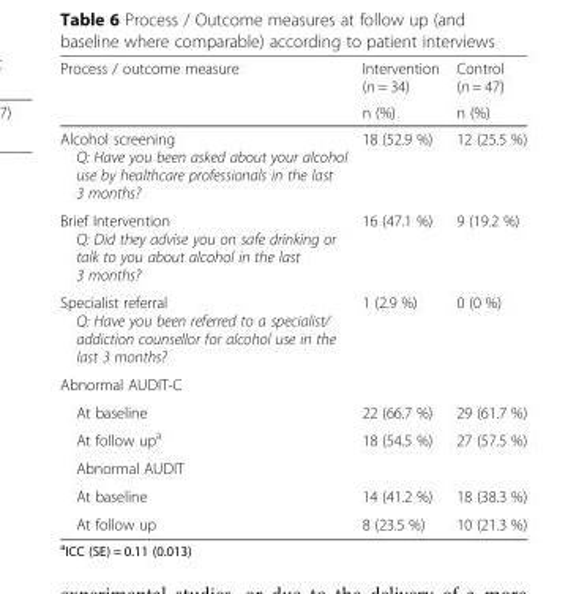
<table><thead><tr><td rowspan="2">Process / outcome measure</td><td rowspan="2">Intervention (n = 34) n (%)</td><td rowspan="2">Control (n = 47) n (%)</td></tr><tr></tr></thead><tbody><tr><td>Alcohol screening Q: Have you been asked about your alcohol use by healthcare professionals in the last 3 months?</td><td>18 (52.9 %)</td><td>12 (25.5 %)</td></tr><tr><td>Brief Intervention Q: Did they advise you on safe drinking or talk to you about alcohol in the last 3 months?</td><td>16 (47.1 %)</td><td>9 (19.2 %)</td></tr><tr><td>Specialist referral Q: Have you been referred to a specialist/ addiction counsellor for alcohol use in the last 3 months?</td><td>1 (2.9 %)</td><td>0 (0 %)</td></tr><tr><td colspan="3">Abnormal AUDIT-C</td></tr><tr><td>At baseline</td><td>22 (66.7 %)</td><td>29 (61.7 %)</td></tr><tr><td>At follow up<sup>a</sup></td><td>18 (54.5 %)</td><td>27 (57.5 %)</td></tr><tr><td colspan="3">Abnormal AUDIT</td></tr><tr><td>At baseline</td><td>14 (41.2 %)</td><td>18 (38.3 %)</td></tr><tr><td>At follow up</td><td>8 (23.5 %)</td><td>10 (21.3 %)</td></tr></tbody></table>